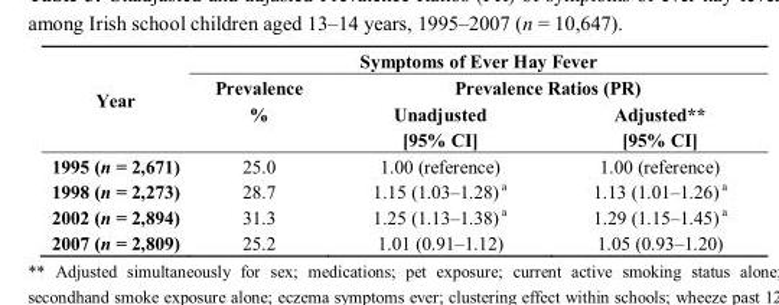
<table><thead><tr><td rowspan="3">Year</td><td colspan="3">Symptoms of Ever Hay Fever</td></tr><tr><td rowspan="2">Prevalence %</td><td colspan="2">Prevalence Ratios (PR)</td></tr><tr><td>Unadjusted [95% CI]</td><td>Adjusted** [95% CI]</td></tr></thead><tbody><tr><td>1995 (n = 2,671)</td><td>25.0</td><td>1.00 (reference)</td><td>1.00 (reference)</td></tr><tr><td>1998 (n = 2,273)</td><td>28.7</td><td>1.15 (1.03–1.28) <sup>a</sup></td><td>1.13 (1.01–1.26) <sup>a</sup></td></tr><tr><td>2002 (n = 2,894)</td><td>31.3</td><td>1.25 (1.13–1.38) <sup>a</sup></td><td>1.29 (1.15–1.45) <sup>a</sup></td></tr><tr><td>2007 (n = 2,809)</td><td>25.2</td><td>1.01 (0.91–1.12)</td><td>1.05 (0.93–1.20)</td></tr></tbody></table>